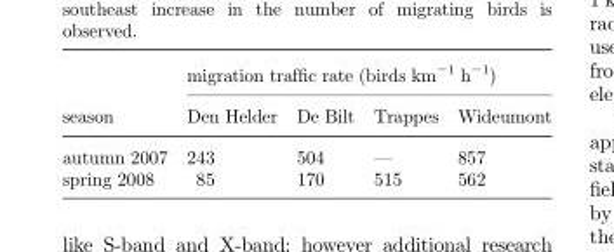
<table><thead><tr><td rowspan="2">season</td><td colspan="4">migration traffic rate (birds km<sup>−1</sup> h<sup>−1</sup>)</td></tr><tr><td>Den Helder</td><td>De Bilt</td><td>Trappes</td><td>Wideumont</td></tr></thead><tbody><tr><td>autumn 2007</td><td>243</td><td>504</td><td>—</td><td>857</td></tr><tr><td>spring 2008</td><td>85</td><td>170</td><td>515</td><td>562</td></tr></tbody></table>